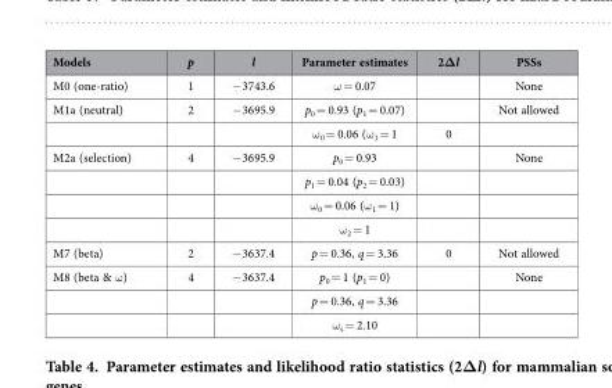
<table><thead><tr><td>Models</td><td>p</td><td>l</td><td>Parameter estimates</td><td>2Δl</td><td>PSSs</td></tr></thead><tbody><tr><td>M0 (one-ratio)</td><td>1</td><td>− 3743.6</td><td>ω = 0.07</td><td></td><td>None</td></tr><tr><td rowspan="2">M1a (neutral)</td><td>2</td><td>− 3695.9</td><td>p<sub>0</sub> = 0.93 (p<sub>1</sub> = 0.07)</td><td></td><td>Not allowed</td></tr><tr><td></td><td></td><td>ω <sub>0</sub> = 0.06 (ω <sub>1</sub> = 1</td><td>0</td><td></td></tr><tr><td rowspan="4">M2a (selection)</td><td>4</td><td>− 3695.9</td><td>p<sub>0</sub> = 0.93</td><td></td><td>None</td></tr><tr><td></td><td></td><td>p<sub>1</sub> = 0.04 (p<sub>2</sub> = 0.03)</td><td></td><td></td></tr><tr><td></td><td></td><td>ω <sub>0</sub> = 0.06 (ω <sub>1</sub> = 1)</td><td></td><td></td></tr><tr><td></td><td></td><td>ω <sub>2</sub> = 1</td><td></td><td></td></tr><tr><td>M7 (beta)</td><td>2</td><td>− 3637.4</td><td>p = 0.36, q = 3.36</td><td>0</td><td>Not allowed</td></tr><tr><td rowspan="3">M8 (beta &amp; ω )</td><td>4</td><td>− 3637.4</td><td>p<sub>0</sub> = 1 (p<sub>1</sub> = 0)</td><td></td><td>None</td></tr><tr><td></td><td></td><td>p = 0.36, q = 3.36</td><td></td><td></td></tr><tr><td></td><td></td><td>ω <sub>s</sub> = 2.10</td><td></td><td></td></tr></tbody></table>